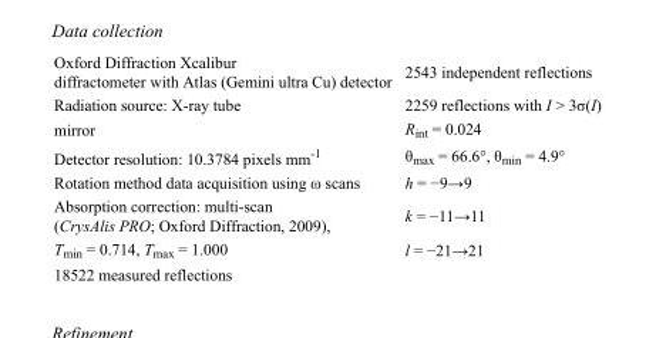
<table><tbody><tr><td>Oxford Diffraction Xcalibur diffractometer with Atlas (Gemini ultra Cu) detector</td><td>2543 independent reflections</td></tr><tr><td>Radiation source: X-ray tube</td><td>2259 reflections with I &gt; 3σ(I)</td></tr><tr><td>mirror</td><td>R<sub>int</sub> = 0.024</td></tr><tr><td>Detector resolution: 10.3784 pixels mm<sup>-1</sup></td><td>θ<sub>max</sub> = 66.6°, θ<sub>min</sub> = 4.9°</td></tr><tr><td>Rotation method data acquisition using ω scans</td><td>h = −9→9</td></tr><tr><td>Absorption correction: multi-scan (CrysAlis PRO; Oxford Diffraction, 2009),</td><td>k = −11→11</td></tr><tr><td>T<sub>min</sub> = 0.714, T<sub>max</sub> = 1.000</td><td>l = −21→21</td></tr><tr><td>18522 measured reflections</td><td></td></tr></tbody></table>